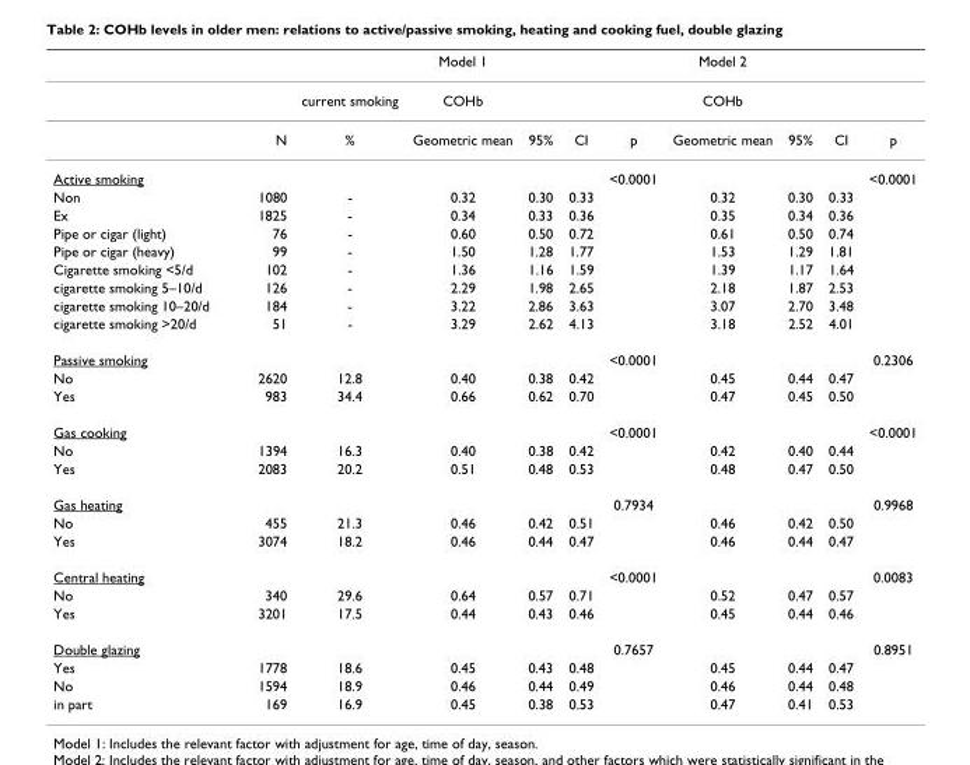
<table><thead><tr><td></td><td></td><td></td><td>Model 1</td><td></td><td></td><td></td><td>Model 2</td><td></td><td></td><td></td></tr></thead><tbody><tr><td></td><td></td><td>current smoking</td><td>COHb</td><td></td><td></td><td></td><td>COHb</td><td></td><td></td><td></td></tr><tr><td></td><td>N</td><td>%</td><td>Geometric mean</td><td>95%</td><td>CI</td><td>p</td><td>Geometric mean</td><td>95%</td><td>CI</td><td>p</td></tr><tr><td>Active smoking</td><td></td><td></td><td></td><td></td><td></td><td>&lt;0.0001</td><td></td><td></td><td></td><td>&lt;0.0001</td></tr><tr><td>Non</td><td>1080</td><td>-</td><td>0.32</td><td>0.30</td><td>0.33</td><td></td><td>0.32</td><td>0.30</td><td>0.33</td><td></td></tr><tr><td>Ex</td><td>1825</td><td>-</td><td>0.34</td><td>0.33</td><td>0.36</td><td></td><td>0.35</td><td>0.34</td><td>0.36</td><td></td></tr><tr><td>Pipe or cigar (light)</td><td>76</td><td>-</td><td>0.60</td><td>0.50</td><td>0.72</td><td></td><td>0.61</td><td>0.50</td><td>0.74</td><td></td></tr><tr><td>Pipe or cigar (heavy)</td><td>99</td><td>-</td><td>1.50</td><td>1.28</td><td>1.77</td><td></td><td>1.53</td><td>1.29</td><td>1.81</td><td></td></tr><tr><td>Cigarette smoking &lt;5/d</td><td>102</td><td>-</td><td>1.36</td><td>1.16</td><td>1.59</td><td></td><td>1.39</td><td>1.17</td><td>1.64</td><td></td></tr><tr><td>cigarette smoking 5–10/d</td><td>126</td><td>-</td><td>2.29</td><td>1.98</td><td>2.65</td><td></td><td>2.18</td><td>1.87</td><td>2.53</td><td></td></tr><tr><td>cigarette smoking 10–20/d</td><td>184</td><td>-</td><td>3.22</td><td>2.86</td><td>3.63</td><td></td><td>3.07</td><td>2.70</td><td>3.48</td><td></td></tr><tr><td>cigarette smoking &gt;20/d</td><td>51</td><td>-</td><td>3.29</td><td>2.62</td><td>4.13</td><td></td><td>3.18</td><td>2.52</td><td>4.01</td><td></td></tr><tr><td>Passive smoking</td><td></td><td></td><td></td><td></td><td></td><td>&lt;0.0001</td><td></td><td></td><td></td><td>0.2306</td></tr><tr><td>No</td><td>2620</td><td>12.8</td><td>0.40</td><td>0.38</td><td>0.42</td><td></td><td>0.45</td><td>0.44</td><td>0.47</td><td></td></tr><tr><td>Yes</td><td>983</td><td>34.4</td><td>0.66</td><td>0.62</td><td>0.70</td><td></td><td>0.47</td><td>0.45</td><td>0.50</td><td></td></tr><tr><td>Gas cooking</td><td></td><td></td><td></td><td></td><td></td><td>&lt;0.0001</td><td></td><td></td><td></td><td>&lt;0.0001</td></tr><tr><td>No</td><td>1394</td><td>16.3</td><td>0.40</td><td>0.38</td><td>0.42</td><td></td><td>0.42</td><td>0.40</td><td>0.44</td><td></td></tr><tr><td>Yes</td><td>2083</td><td>20.2</td><td>0.51</td><td>0.48</td><td>0.53</td><td></td><td>0.48</td><td>0.47</td><td>0.50</td><td></td></tr><tr><td>Gas heating</td><td></td><td></td><td></td><td></td><td></td><td>0.7934</td><td></td><td></td><td></td><td>0.9968</td></tr><tr><td>No</td><td>455</td><td>21.3</td><td>0.46</td><td>0.42</td><td>0.51</td><td></td><td>0.46</td><td>0.42</td><td>0.50</td><td></td></tr><tr><td>Yes</td><td>3074</td><td>18.2</td><td>0.46</td><td>0.44</td><td>0.47</td><td></td><td>0.46</td><td>0.44</td><td>0.47</td><td></td></tr><tr><td>Central heating</td><td></td><td></td><td></td><td></td><td></td><td>&lt;0.0001</td><td></td><td></td><td></td><td>0.0083</td></tr><tr><td>No</td><td>340</td><td>29.6</td><td>0.64</td><td>0.57</td><td>0.71</td><td></td><td>0.52</td><td>0.47</td><td>0.57</td><td></td></tr><tr><td>Yes</td><td>3201</td><td>17.5</td><td>0.44</td><td>0.43</td><td>0.46</td><td></td><td>0.45</td><td>0.44</td><td>0.46</td><td></td></tr><tr><td>Double glazing</td><td></td><td></td><td></td><td></td><td></td><td>0.7657</td><td></td><td></td><td></td><td>0.8951</td></tr><tr><td>Yes</td><td>1778</td><td>18.6</td><td>0.45</td><td>0.43</td><td>0.48</td><td></td><td>0.45</td><td>0.44</td><td>0.47</td><td></td></tr><tr><td>No</td><td>1594</td><td>18.9</td><td>0.46</td><td>0.44</td><td>0.49</td><td></td><td>0.46</td><td>0.44</td><td>0.48</td><td></td></tr><tr><td>in part</td><td>169</td><td>16.9</td><td>0.45</td><td>0.38</td><td>0.53</td><td></td><td>0.47</td><td>0.41</td><td>0.53</td><td></td></tr></tbody></table>